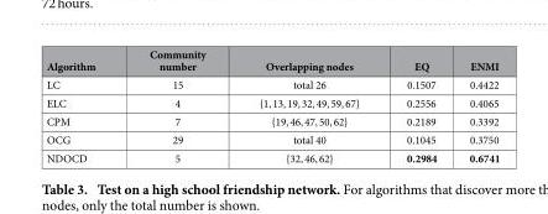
<table><thead><tr><td>Algorithm</td><td>Community number</td><td>Overlapping nodes</td><td>EQ</td><td>ENMI</td></tr></thead><tbody><tr><td>LC</td><td>15</td><td>total 26</td><td>0.1507</td><td>0.4422</td></tr><tr><td>ELC</td><td>4</td><td>{1, 13, 19, 32, 49, 59, 67}</td><td>0.2556</td><td>0.4065</td></tr><tr><td>CPM</td><td>7</td><td>{19, 46, 47, 50, 62}</td><td>0.2189</td><td>0.3392</td></tr><tr><td>OCG</td><td>29</td><td>total 40</td><td>0.1045</td><td>0.3750</td></tr><tr><td>NDOCD</td><td>5</td><td>{32, 46, 62}</td><td>0.2984</td><td>0.6741</td></tr></tbody></table>